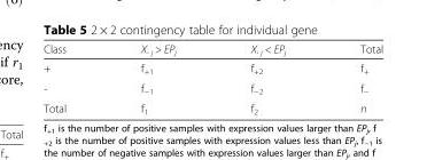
<table><thead><tr><td>Class</td><td>X. <sub>j</sub> &gt; EP<sub>j</sub></td><td>X. <sub>j</sub> &lt; EP<sub>j</sub></td><td>Total</td></tr></thead><tbody><tr><td>+</td><td>f<sub>+1</sub></td><td>f<sub>+2</sub></td><td>f<sub>+</sub></td></tr><tr><td>-</td><td>f<sub>−1</sub></td><td>f<sub>−2</sub></td><td>f<sub>−</sub></td></tr><tr><td>Total</td><td>f<sub>1</sub></td><td>f<sub>2</sub></td><td>n</td></tr></tbody></table>